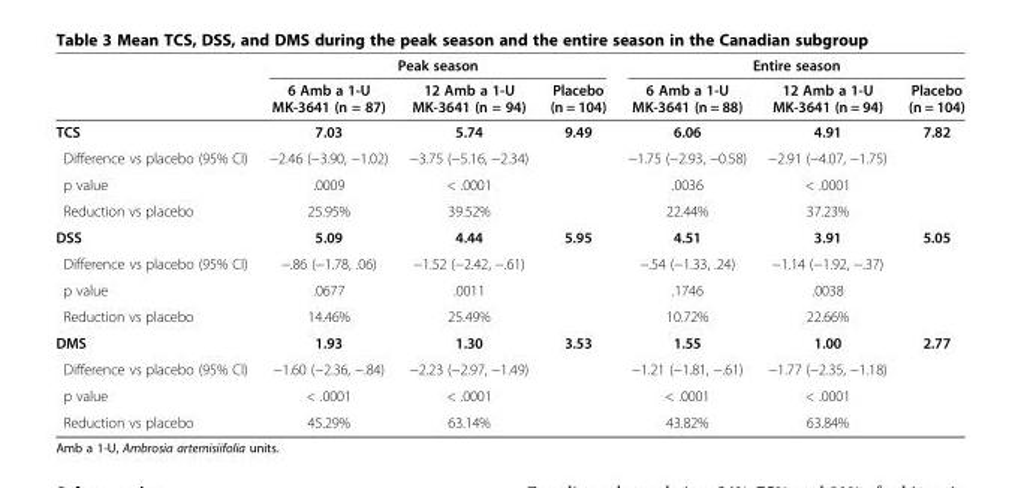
<table><thead><tr><td rowspan="2"></td><td colspan="3">Peak season</td><td colspan="3">Entire season</td></tr><tr><td>6 Amb a 1-U MK-3641 (n = 87)</td><td>12 Amb a 1-U MK-3641 (n = 94)</td><td>Placebo (n = 104)</td><td>6 Amb a 1-U MK-3641 (n = 88)</td><td>12 Amb a 1-U MK-3641 (n = 94)</td><td>Placebo (n = 104)</td></tr></thead><tbody><tr><td>TCS</td><td>7.03</td><td>5.74</td><td>9.49</td><td>6.06</td><td>4.91</td><td>7.82</td></tr><tr><td>Difference vs placebo (95% CI)</td><td>−2.46 (−3.90, −1.02)</td><td>−3.75 (−5.16, −2.34)</td><td></td><td>−1.75 (−2.93, −0.58)</td><td>−2.91 (−4.07, −1.75)</td><td></td></tr><tr><td>p value</td><td>.0009</td><td>&lt; .0001</td><td></td><td>.0036</td><td>&lt; .0001</td><td></td></tr><tr><td>Reduction vs placebo</td><td>25.95%</td><td>39.52%</td><td></td><td>22.44%</td><td>37.23%</td><td></td></tr><tr><td>DSS</td><td>5.09</td><td>4.44</td><td>5.95</td><td>4.51</td><td>3.91</td><td>5.05</td></tr><tr><td>Difference vs placebo (95% CI)</td><td>−.86 (−1.78, .06)</td><td>−1.52 (−2.42, −.61)</td><td></td><td>−.54 (−1.33, .24)</td><td>−1.14 (−1.92, −.37)</td><td></td></tr><tr><td>p value</td><td>.0677</td><td>.0011</td><td></td><td>.1746</td><td>.0038</td><td></td></tr><tr><td>Reduction vs placebo</td><td>14.46%</td><td>25.49%</td><td></td><td>10.72%</td><td>22.66%</td><td></td></tr><tr><td>DMS</td><td>1.93</td><td>1.30</td><td>3.53</td><td>1.55</td><td>1.00</td><td>2.77</td></tr><tr><td>Difference vs placebo (95% CI)</td><td>−1.60 (−2.36, −.84)</td><td>−2.23 (−2.97, −1.49)</td><td></td><td>−1.21 (−1.81, −.61)</td><td>−1.77 (−2.35, −1.18)</td><td></td></tr><tr><td>p value</td><td>&lt; .0001</td><td>&lt; .0001</td><td></td><td>&lt; .0001</td><td>&lt; .0001</td><td></td></tr><tr><td>Reduction vs placebo</td><td>45.29%</td><td>63.14%</td><td></td><td>43.82%</td><td>63.84%</td><td></td></tr></tbody></table>